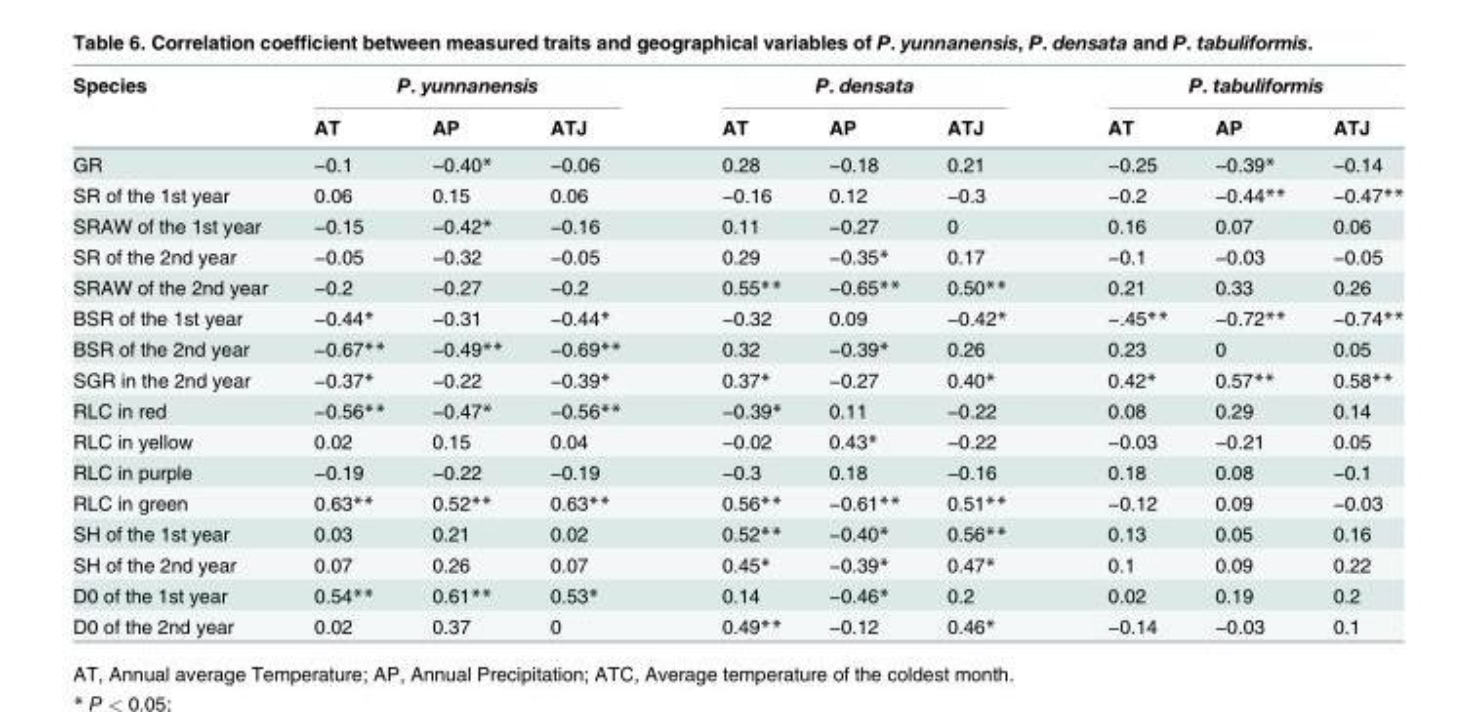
<table><thead><tr><td rowspan="2">Species</td><td colspan="3">P. yunnanensis</td><td colspan="3">P. densata</td><td colspan="3">P. tabuliformis</td></tr><tr><td>AT</td><td>AP</td><td>ATJ</td><td>AT</td><td>AP</td><td>ATJ</td><td>AT</td><td>AP</td><td>ATJ</td></tr></thead><tbody><tr><td>GR</td><td>−0.1</td><td>−0.40*</td><td>−0.06</td><td>0.28</td><td>−0.18</td><td>0.21</td><td>−0.25</td><td>−0.39*</td><td>−0.14</td></tr><tr><td>SR of the 1st year</td><td>0.06</td><td>0.15</td><td>0.06</td><td>−0.16</td><td>0.12</td><td>−0.3</td><td>−0.2</td><td>−0.44**</td><td>−0.47**</td></tr><tr><td>SRAW of the 1st year</td><td>−0.15</td><td>−0.42*</td><td>−0.16</td><td>0.11</td><td>−0.27</td><td>0</td><td>0.16</td><td>0.07</td><td>0.06</td></tr><tr><td>SR of the 2nd year</td><td>−0.05</td><td>−0.32</td><td>−0.05</td><td>0.29</td><td>−0.35*</td><td>0.17</td><td>−0.1</td><td>−0.03</td><td>−0.05</td></tr><tr><td>SRAW of the 2nd year</td><td>−0.2</td><td>−0.27</td><td>−0.2</td><td>0.55**</td><td>−0.65**</td><td>0.50**</td><td>0.21</td><td>0.33</td><td>0.26</td></tr><tr><td>BSR of the 1st year</td><td>−0.44*</td><td>−0.31</td><td>−0.44*</td><td>−0.32</td><td>0.09</td><td>−0.42*</td><td>−.45**</td><td>−0.72**</td><td>−0.74**</td></tr><tr><td>BSR of the 2nd year</td><td>−0.67**</td><td>−0.49**</td><td>−0.69**</td><td>0.32</td><td>−0.39*</td><td>0.26</td><td>0.23</td><td>0</td><td>0.05</td></tr><tr><td>SGR in the 2nd year</td><td>−0.37*</td><td>−0.22</td><td>−0.39*</td><td>0.37*</td><td>−0.27</td><td>0.40*</td><td>0.42*</td><td>0.57**</td><td>0.58**</td></tr><tr><td>RLC in red</td><td>−0.56**</td><td>−0.47*</td><td>−0.56**</td><td>−0.39*</td><td>0.11</td><td>−0.22</td><td>0.08</td><td>0.29</td><td>0.14</td></tr><tr><td>RLC in yellow</td><td>0.02</td><td>0.15</td><td>0.04</td><td>−0.02</td><td>0.43*</td><td>−0.22</td><td>−0.03</td><td>−0.21</td><td>0.05</td></tr><tr><td>RLC in purple</td><td>−0.19</td><td>−0.22</td><td>−0.19</td><td>−0.3</td><td>0.18</td><td>−0.16</td><td>0.18</td><td>0.08</td><td>−0.1</td></tr><tr><td>RLC in green</td><td>0.63**</td><td>0.52**</td><td>0.63**</td><td>0.56**</td><td>−0.61**</td><td>0.51**</td><td>−0.12</td><td>0.09</td><td>−0.03</td></tr><tr><td>SH of the 1st year</td><td>0.03</td><td>0.21</td><td>0.02</td><td>0.52**</td><td>−0.40*</td><td>0.56**</td><td>0.13</td><td>0.05</td><td>0.16</td></tr><tr><td>SH of the 2nd year</td><td>0.07</td><td>0.26</td><td>0.07</td><td>0.45*</td><td>−0.39*</td><td>0.47*</td><td>0.1</td><td>0.09</td><td>0.22</td></tr><tr><td>D0 of the 1st year</td><td>0.54**</td><td>0.61**</td><td>0.53*</td><td>0.14</td><td>−0.46*</td><td>0.2</td><td>0.02</td><td>0.19</td><td>0.2</td></tr><tr><td>D0 of the 2nd year</td><td>0.02</td><td>0.37</td><td>0</td><td>0.49**</td><td>−0.12</td><td>0.46*</td><td>−0.14</td><td>−0.03</td><td>0.1</td></tr></tbody></table>